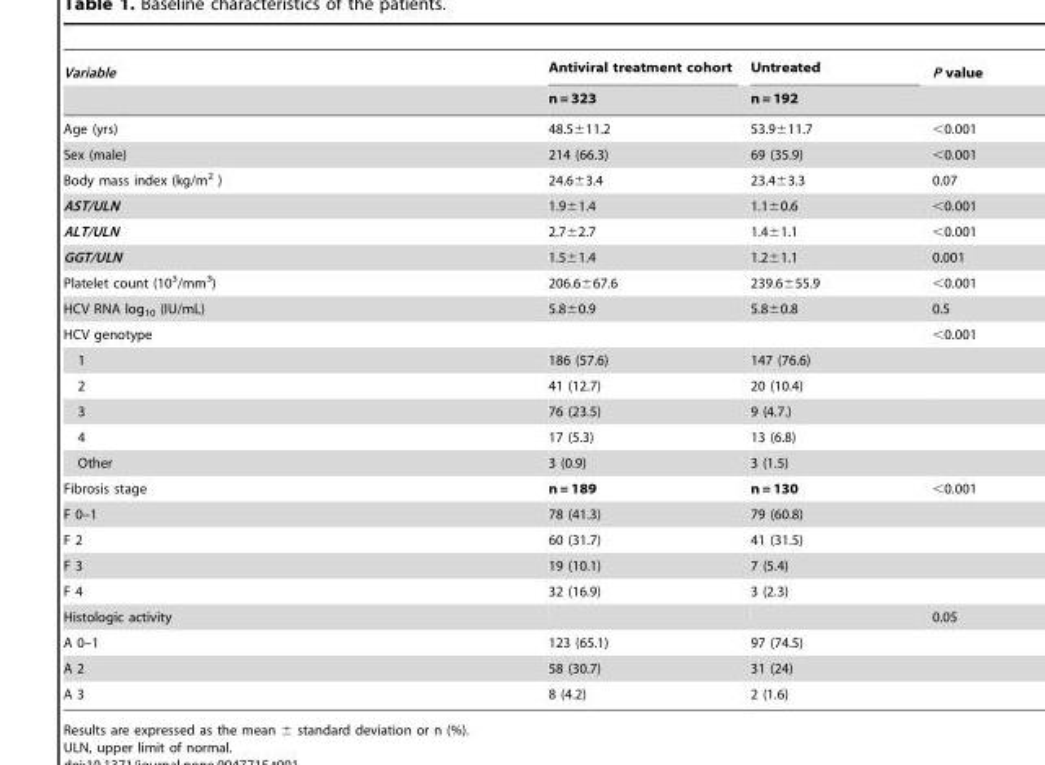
<table><thead><tr><td rowspan="2">Variable</td><td rowspan="2">Antiviral treatment cohort n = 323</td><td rowspan="2">Untreated n = 192</td><td rowspan="2">P value</td></tr><tr></tr></thead><tbody><tr><td>Age (yrs)</td><td>48.5±11.2</td><td>53.9±11.7</td><td>&lt;0.001</td></tr><tr><td>Sex (male)</td><td>214 (66.3)</td><td>69 (35.9)</td><td>&lt;0.001</td></tr><tr><td>Body mass index (kg/m<sup>2</sup> )</td><td>24.6±3.4</td><td>23.4±3.3</td><td>0.07</td></tr><tr><td>AST/ULN</td><td>1.9±1.4</td><td>1.1±0.6</td><td>&lt;0.001</td></tr><tr><td>ALT/ULN</td><td>2.7±2.7</td><td>1.4±1.1</td><td>&lt;0.001</td></tr><tr><td>GGT/ULN</td><td>1.5±1.4</td><td>1.2±1.1</td><td>0.001</td></tr><tr><td>Platelet count (10<sup>3</sup>/mm<sup>3</sup>)</td><td>206.6±67.6</td><td>239.6±55.9</td><td>&lt;0.001</td></tr><tr><td>HCV RNA log<sub>10</sub> (IU/mL)</td><td>5.8±0.9</td><td>5.8±0.8</td><td>0.5</td></tr><tr><td>HCV genotype</td><td></td><td></td><td>&lt;0.001</td></tr><tr><td>1</td><td>186 (57.6)</td><td>147 (76.6)</td><td></td></tr><tr><td>2</td><td>41 (12.7)</td><td>20 (10.4)</td><td></td></tr><tr><td>3</td><td>76 (23.5)</td><td>9 (4.7.)</td><td></td></tr><tr><td>4</td><td>17 (5.3)</td><td>13 (6.8)</td><td></td></tr><tr><td>Other</td><td>3 (0.9)</td><td>3 (1.5)</td><td></td></tr><tr><td>Fibrosis stage</td><td>n = 189</td><td>n = 130</td><td>&lt;0.001</td></tr><tr><td>F 0–1</td><td>78 (41.3)</td><td>79 (60.8)</td><td></td></tr><tr><td>F 2</td><td>60 (31.7)</td><td>41 (31.5)</td><td></td></tr><tr><td>F 3</td><td>19 (10.1)</td><td>7 (5.4)</td><td></td></tr><tr><td>F 4</td><td>32 (16.9)</td><td>3 (2.3)</td><td></td></tr><tr><td>Histologic activity</td><td></td><td></td><td>0.05</td></tr><tr><td>A 0–1</td><td>123 (65.1)</td><td>97 (74.5)</td><td></td></tr><tr><td>A 2</td><td>58 (30.7)</td><td>31 (24)</td><td></td></tr><tr><td>A 3</td><td>8 (4.2)</td><td>2 (1.6)</td><td></td></tr></tbody></table>